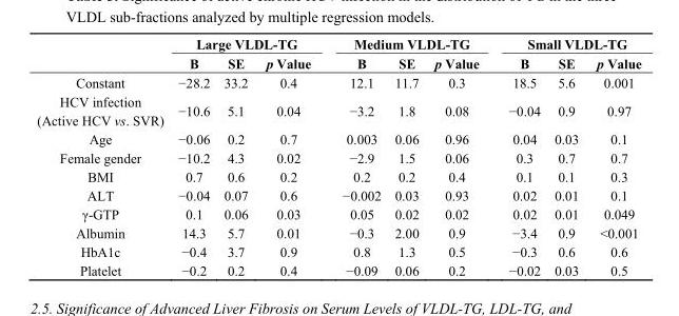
<table><thead><tr><td rowspan="2"></td><td colspan="3">Large VLDL-TG</td><td colspan="3">Medium VLDL-TG</td><td colspan="3">Small VLDL-TG</td></tr><tr><td>B</td><td>SE</td><td>p Value</td><td>B</td><td>SE</td><td>p Value</td><td>B</td><td>SE</td><td>p Value</td></tr></thead><tbody><tr><td>Constant</td><td>−28.2</td><td>33.2</td><td>0.4</td><td>12.1</td><td>11.7</td><td>0.3</td><td>18.5</td><td>5.6</td><td>0.001</td></tr><tr><td>HCV infection (Active HCV vs. SVR)</td><td>−10.6</td><td>5.1</td><td>0.04</td><td>−3.2</td><td>1.8</td><td>0.08</td><td>−0.04</td><td>0.9</td><td>0.97</td></tr><tr><td>Age</td><td>−0.06</td><td>0.2</td><td>0.7</td><td>0.003</td><td>0.06</td><td>0.96</td><td>0.04</td><td>0.03</td><td>0.1</td></tr><tr><td>Female gender</td><td>−10.2</td><td>4.3</td><td>0.02</td><td>−2.9</td><td>1.5</td><td>0.06</td><td>0.3</td><td>0.7</td><td>0.7</td></tr><tr><td>BMI</td><td>0.7</td><td>0.6</td><td>0.2</td><td>0.2</td><td>0.2</td><td>0.4</td><td>0.1</td><td>0.1</td><td>0.3</td></tr><tr><td>ALT</td><td>−0.04</td><td>0.07</td><td>0.6</td><td>−0.002</td><td>0.03</td><td>0.93</td><td>0.02</td><td>0.01</td><td>0.1</td></tr><tr><td>γ-GTP</td><td>0.1</td><td>0.06</td><td>0.03</td><td>0.05</td><td>0.02</td><td>0.02</td><td>0.02</td><td>0.01</td><td>0.049</td></tr><tr><td>Albumin</td><td>14.3</td><td>5.7</td><td>0.01</td><td>−0.3</td><td>2.00</td><td>0.9</td><td>−3.4</td><td>0.9</td><td>&lt;0.001</td></tr><tr><td>HbA1c</td><td>−0.4</td><td>3.7</td><td>0.9</td><td>0.8</td><td>1.3</td><td>0.5</td><td>−0.3</td><td>0.6</td><td>0.6</td></tr><tr><td>Platelet</td><td>−0.2</td><td>0.2</td><td>0.4</td><td>−0.09</td><td>0.06</td><td>0.2</td><td>−0.02</td><td>0.03</td><td>0.5</td></tr></tbody></table>